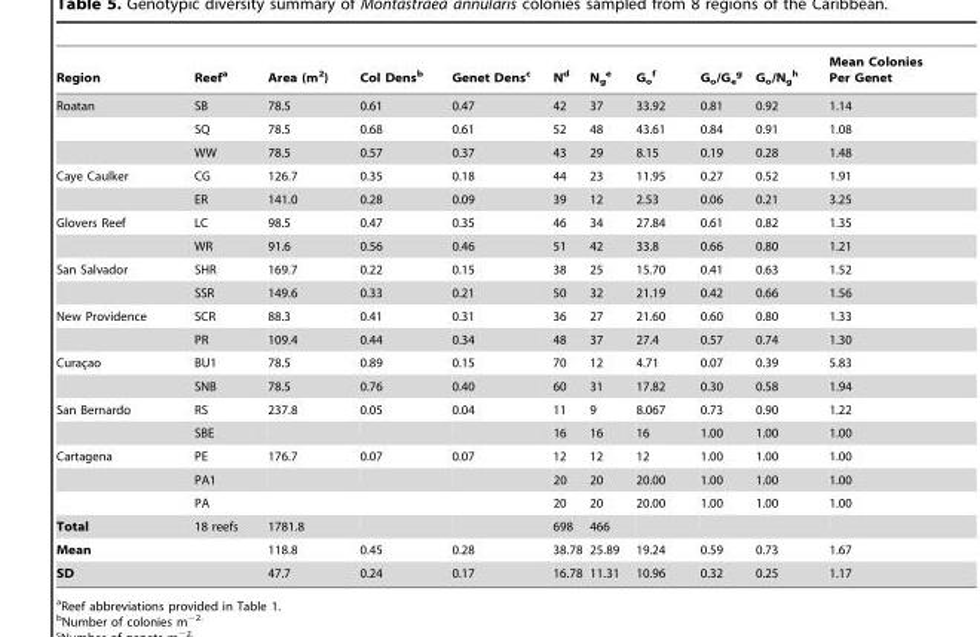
<table><thead><tr><td>Region</td><td>Reef<sup>a</sup></td><td>Area (m<sup>2</sup>)</td><td>Col Dens<sup>b</sup></td><td>Genet Dens<sup>c</sup></td><td>N<sup>d</sup></td><td>N<sub>g</sub> e</td><td>G<sub>o</sub> f</td><td>G<sub>o</sub>/G<sub>e</sub> g</td><td>G<sub>o</sub>/N<sub>g</sub> h</td><td>Mean Colonies Per Genet</td></tr></thead><tbody><tr><td rowspan="3">Roatan</td><td>SB</td><td>78.5</td><td>0.61</td><td>0.47</td><td>42</td><td>37</td><td>33.92</td><td>0.81</td><td>0.92</td><td>1.14</td></tr><tr><td>SQ</td><td>78.5</td><td>0.68</td><td>0.61</td><td>52</td><td>48</td><td>43.61</td><td>0.84</td><td>0.91</td><td>1.08</td></tr><tr><td>WW</td><td>78.5</td><td>0.57</td><td>0.37</td><td>43</td><td>29</td><td>8.15</td><td>0.19</td><td>0.28</td><td>1.48</td></tr><tr><td rowspan="2">Caye Caulker</td><td>CG</td><td>126.7</td><td>0.35</td><td>0.18</td><td>44</td><td>23</td><td>11.95</td><td>0.27</td><td>0.52</td><td>1.91</td></tr><tr><td>ER</td><td>141.0</td><td>0.28</td><td>0.09</td><td>39</td><td>12</td><td>2.53</td><td>0.06</td><td>0.21</td><td>3.25</td></tr><tr><td rowspan="2">Glovers Reef</td><td>LC</td><td>98.5</td><td>0.47</td><td>0.35</td><td>46</td><td>34</td><td>27.84</td><td>0.61</td><td>0.82</td><td>1.35</td></tr><tr><td>WR</td><td>91.6</td><td>0.56</td><td>0.46</td><td>51</td><td>42</td><td>33.8</td><td>0.66</td><td>0.80</td><td>1.21</td></tr><tr><td rowspan="2">San Salvador</td><td>SHR</td><td>169.7</td><td>0.22</td><td>0.15</td><td>38</td><td>25</td><td>15.70</td><td>0.41</td><td>0.63</td><td>1.52</td></tr><tr><td>SSR</td><td>149.6</td><td>0.33</td><td>0.21</td><td>50</td><td>32</td><td>21.19</td><td>0.42</td><td>0.66</td><td>1.56</td></tr><tr><td rowspan="2">New Providence</td><td>SCR</td><td>88.3</td><td>0.41</td><td>0.31</td><td>36</td><td>27</td><td>21.60</td><td>0.60</td><td>0.80</td><td>1.33</td></tr><tr><td>PR</td><td>109.4</td><td>0.44</td><td>0.34</td><td>48</td><td>37</td><td>27.4</td><td>0.57</td><td>0.74</td><td>1.30</td></tr><tr><td rowspan="2">Curac¸ao</td><td>BU1</td><td>78.5</td><td>0.89</td><td>0.15</td><td>70</td><td>12</td><td>4.71</td><td>0.07</td><td>0.39</td><td>5.83</td></tr><tr><td>SNB</td><td>78.5</td><td>0.76</td><td>0.40</td><td>60</td><td>31</td><td>17.82</td><td>0.30</td><td>0.58</td><td>1.94</td></tr><tr><td rowspan="2">San Bernardo</td><td>RS</td><td>237.8</td><td>0.05</td><td>0.04</td><td>11</td><td>9</td><td>8.067</td><td>0.73</td><td>0.90</td><td>1.22</td></tr><tr><td>SBE</td><td></td><td></td><td></td><td>16</td><td>16</td><td>16</td><td>1.00</td><td>1.00</td><td>1.00</td></tr><tr><td rowspan="3">Cartagena</td><td>PE</td><td>176.7</td><td>0.07</td><td>0.07</td><td>12</td><td>12</td><td>12</td><td>1.00</td><td>1.00</td><td>1.00</td></tr><tr><td>PA1</td><td></td><td></td><td></td><td>20</td><td>20</td><td>20.00</td><td>1.00</td><td>1.00</td><td>1.00</td></tr><tr><td>PA</td><td></td><td></td><td></td><td>20</td><td>20</td><td>20.00</td><td>1.00</td><td>1.00</td><td>1.00</td></tr><tr><td>Total</td><td>18 reefs</td><td>1781.8</td><td></td><td></td><td>698</td><td>466</td><td></td><td></td><td></td><td></td></tr><tr><td>Mean</td><td></td><td>118.8</td><td>0.45</td><td>0.28</td><td>38.78</td><td>25.89</td><td>19.24</td><td>0.59</td><td>0.73</td><td>1.67</td></tr><tr><td>SD</td><td></td><td>47.7</td><td>0.24</td><td>0.17</td><td>16.78</td><td>11.31</td><td>10.96</td><td>0.32</td><td>0.25</td><td>1.17</td></tr></tbody></table>